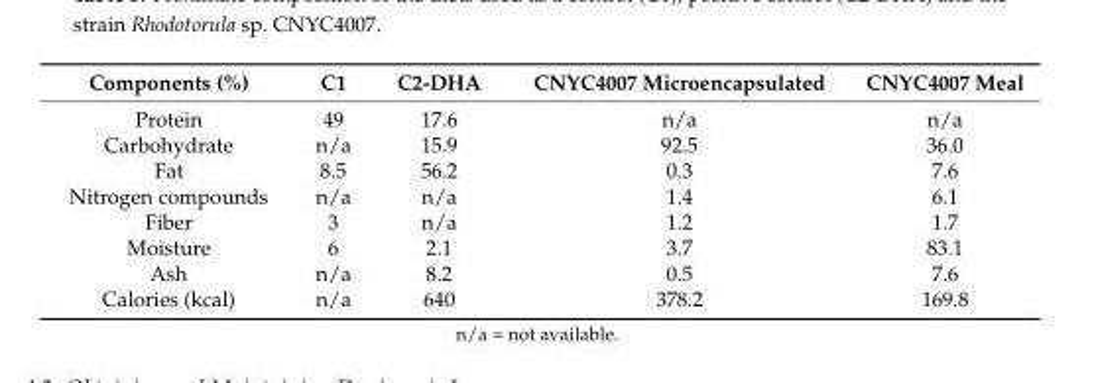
<table><thead><tr><td>Components (%)</td><td>C1</td><td>C2-DHA</td><td>CNYC4007 Microencapsulated</td><td>CNYC4007 Meal</td></tr></thead><tbody><tr><td>Protein</td><td>49</td><td>17.6</td><td>n/a</td><td>n/a</td></tr><tr><td>Carbohydrate</td><td>n/a</td><td>15.9</td><td>92.5</td><td>36.0</td></tr><tr><td>Fat</td><td>8.5</td><td>56.2</td><td>0.3</td><td>7.6</td></tr><tr><td>Nitrogen compounds</td><td>n/a</td><td>n/a</td><td>1.4</td><td>6.1</td></tr><tr><td>Fiber</td><td>3</td><td>n/a</td><td>1.2</td><td>1.7</td></tr><tr><td>Moisture</td><td>6</td><td>2.1</td><td>3.7</td><td>83.1</td></tr><tr><td>Ash</td><td>n/a</td><td>8.2</td><td>0.5</td><td>7.6</td></tr><tr><td>Calories (kcal)</td><td>n/a</td><td>640</td><td>378.2</td><td>169.8</td></tr></tbody></table>